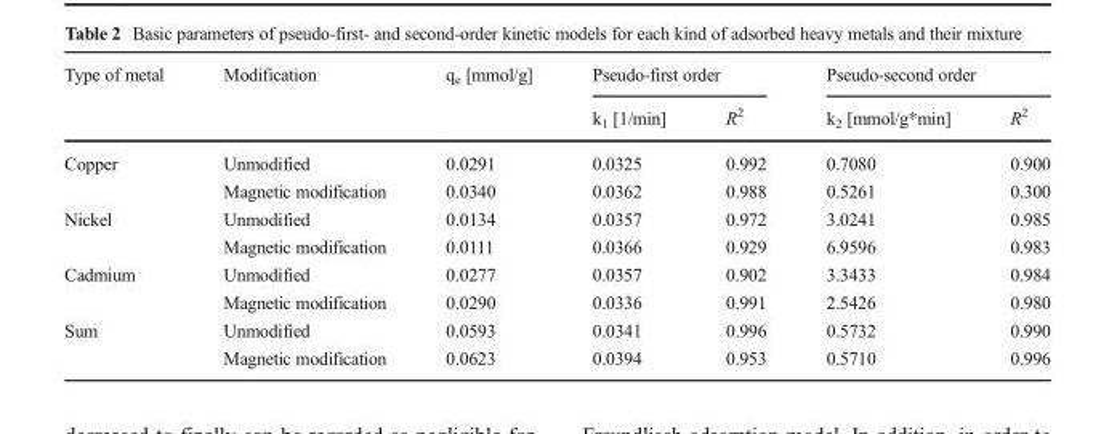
<table><thead><tr><td rowspan="2">Type of metal</td><td rowspan="2">Modification</td><td rowspan="2">q<sub>e</sub> [mmol/g]</td><td colspan="2">Pseudo-first order</td><td colspan="2">Pseudo-second order</td></tr><tr><td>k<sub>1</sub> [1/min]</td><td>R<sup>2</sup></td><td>k<sub>2</sub> [mmol/g*min]</td><td>R<sup>2</sup></td></tr></thead><tbody><tr><td rowspan="2">Copper</td><td>Unmodified</td><td>0.0291</td><td>0.0325</td><td>0.992</td><td>0.7080</td><td>0.900</td></tr><tr><td>Magnetic modification</td><td>0.0340</td><td>0.0362</td><td>0.988</td><td>0.5261</td><td>0.300</td></tr><tr><td rowspan="2">Nickel</td><td>Unmodified</td><td>0.0134</td><td>0.0357</td><td>0.972</td><td>3.0241</td><td>0.985</td></tr><tr><td>Magnetic modification</td><td>0.0111</td><td>0.0366</td><td>0.929</td><td>6.9596</td><td>0.983</td></tr><tr><td rowspan="2">Cadmium</td><td>Unmodified</td><td>0.0277</td><td>0.0357</td><td>0.902</td><td>3.3433</td><td>0.984</td></tr><tr><td>Magnetic modification</td><td>0.0290</td><td>0.0336</td><td>0.991</td><td>2.5426</td><td>0.980</td></tr><tr><td rowspan="2">Sum</td><td>Unmodified</td><td>0.0593</td><td>0.0341</td><td>0.996</td><td>0.5732</td><td>0.990</td></tr><tr><td>Magnetic modification</td><td>0.0623</td><td>0.0394</td><td>0.953</td><td>0.5710</td><td>0.996</td></tr></tbody></table>